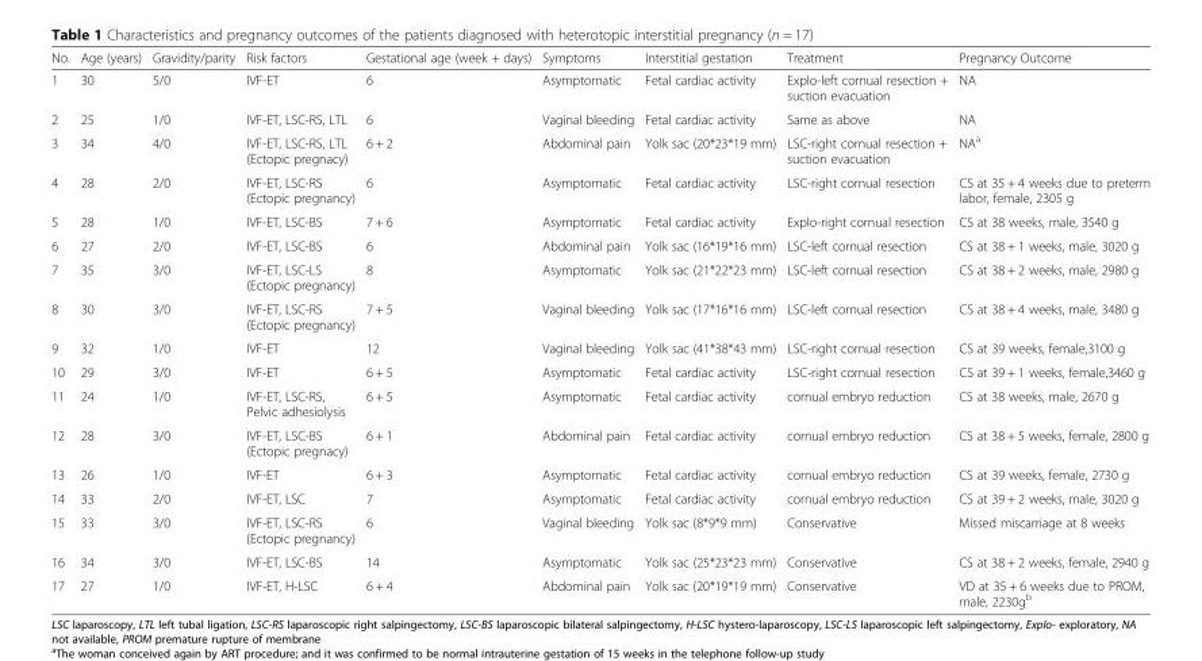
<table><thead><tr><td>No.</td><td>Age (years)</td><td>Gravidity/parity</td><td>Risk factors</td><td>Gestational age (week + days)</td><td>Symptoms</td><td>Interstitial gestation</td><td>Treatment</td><td>Pregnancy Outcome</td></tr></thead><tbody><tr><td>1</td><td>30</td><td>5/0</td><td>IVF-ET</td><td>6</td><td>Asymptomatic</td><td>Fetal cardiac activity</td><td>Explo-left cornual resection + suction evacuation</td><td>NA</td></tr><tr><td>2</td><td>25</td><td>1/0</td><td>IVF-ET, LSC-RS, LTL</td><td>6</td><td>Vaginal bleeding</td><td>Fetal cardiac activity</td><td>Same as above</td><td>NA</td></tr><tr><td>3</td><td>34</td><td>4/0</td><td>IVF-ET, LSC-RS, LTL (Ectopic pregnacy)</td><td>6 + 2</td><td>Abdominal pain</td><td>Yolk sac (20*23*19 mm)</td><td>LSC-right cornual resection + suction evacuation</td><td>NA<sup>a</sup></td></tr><tr><td>4</td><td>28</td><td>2/0</td><td>IVF-ET, LSC-RS (Ectopic pregnancy)</td><td>6</td><td>Asymptomatic</td><td>Fetal cardiac activity</td><td>LSC-right cornual resection</td><td>CS at 35 + 4 weeks due to preterm labor, female, 2305 g</td></tr><tr><td>5</td><td>28</td><td>1/0</td><td>IVF-ET, LSC-BS</td><td>7 + 6</td><td>Asymptomatic</td><td>Fetal cardiac activity</td><td>Explo-right cornual resection</td><td>CS at 38 weeks, male, 3540 g</td></tr><tr><td>6</td><td>27</td><td>2/0</td><td>IVF-ET, LSC-BS</td><td>6</td><td>Abdominal pain</td><td>Yolk sac (16*19*16 mm)</td><td>LSC-left cornual resection</td><td>CS at 38 + 1 weeks, male, 3020 g</td></tr><tr><td>7</td><td>35</td><td>3/0</td><td>IVF-ET, LSC-LS (Ectopic pregnancy)</td><td>8</td><td>Asymptomatic</td><td>Yolk sac (21*22*23 mm)</td><td>LSC-left cornual resection</td><td>CS at 38 + 2 weeks, male, 2980 g</td></tr><tr><td>8</td><td>30</td><td>3/0</td><td>IVF-ET, LSC-RS (Ectopic pregnancy)</td><td>7 + 5</td><td>Vaginal bleeding</td><td>Yolk sac (17*16*16 mm)</td><td>LSC-left cornual resection</td><td>CS at 38 + 4 weeks, male, 3480 g</td></tr><tr><td>9</td><td>32</td><td>1/0</td><td>IVF-ET</td><td>12</td><td>Vaginal bleeding</td><td>Yolk sac (41*38*43 mm)</td><td>LSC-right cornual resection</td><td>CS at 39 weeks, female,3100 g</td></tr><tr><td>10</td><td>29</td><td>3/0</td><td>IVF-ET</td><td>6 + 5</td><td>Asymptomatic</td><td>Fetal cardiac activity</td><td>LSC-right cornual resection</td><td>CS at 39 + 1 weeks, female,3460 g</td></tr><tr><td>11</td><td>24</td><td>1/0</td><td>IVF-ET, LSC-RS, Pelvic adhesiolysis</td><td>6 + 5</td><td>Asymptomatic</td><td>Fetal cardiac activity</td><td>cornual embryo reduction</td><td>CS at 38 weeks, male, 2670 g</td></tr><tr><td>12</td><td>28</td><td>3/0</td><td>IVF-ET, LSC-BS (Ectopic pregnacy)</td><td>6 + 1</td><td>Abdominal pain</td><td>Fetal cardiac activity</td><td>cornual embryo reduction</td><td>CS at 38 + 5 weeks, female, 2800 g</td></tr><tr><td>13</td><td>26</td><td>1/0</td><td>IVF-ET</td><td>6 + 3</td><td>Asymptomatic</td><td>Fetal cardiac activity</td><td>cornual embryo reduction</td><td>CS at 39 weeks, female, 2730 g</td></tr><tr><td>14</td><td>33</td><td>2/0</td><td>IVF-ET, LSC</td><td>7</td><td>Asymptomatic</td><td>Fetal cardiac activity</td><td>cornual embryo reduction</td><td>CS at 39 + 2 weeks, male, 3020 g</td></tr><tr><td>15</td><td>33</td><td>3/0</td><td>IVF-ET, LSC-RS (Ectopic pregnancy)</td><td>6</td><td>Vaginal bleeding</td><td>Yolk sac (8*9*9 mm)</td><td>Conservative</td><td>Missed miscarriage at 8 weeks</td></tr><tr><td>16</td><td>34</td><td>3/0</td><td>IVF-ET, LSC-BS</td><td>14</td><td>Asymptomatic</td><td>Yolk sac (25*23*23 mm)</td><td>Conservative</td><td>CS at 38 + 2 weeks, female, 2940 g</td></tr><tr><td>17</td><td>27</td><td>1/0</td><td>IVF-ET, H-LSC</td><td>6 + 4</td><td>Abdominal pain</td><td>Yolk sac (20*19*19 mm)</td><td>Conservative</td><td>VD at 35 + 6 weeks due to PROM, male, 2230g<sup>b</sup></td></tr></tbody></table>